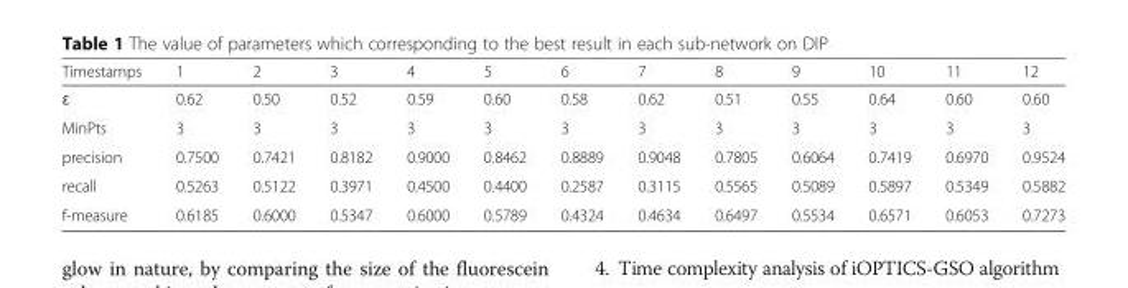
<table><thead><tr><td>Timestamps</td><td>1</td><td>2</td><td>3</td><td>4</td><td>5</td><td>6</td><td>7</td><td>8</td><td>9</td><td>10</td><td>11</td><td>12</td></tr></thead><tbody><tr><td>ɛ</td><td>0.62</td><td>0.50</td><td>0.52</td><td>0.59</td><td>0.60</td><td>0.58</td><td>0.62</td><td>0.51</td><td>0.55</td><td>0.64</td><td>0.60</td><td>0.60</td></tr><tr><td>MinPts</td><td>3</td><td>3</td><td>3</td><td>3</td><td>3</td><td>3</td><td>3</td><td>3</td><td>3</td><td>3</td><td>3</td><td>3</td></tr><tr><td>precision</td><td>0.7500</td><td>0.7421</td><td>0.8182</td><td>0.9000</td><td>0.8462</td><td>0.8889</td><td>0.9048</td><td>0.7805</td><td>0.6064</td><td>0.7419</td><td>0.6970</td><td>0.9524</td></tr><tr><td>recall</td><td>0.5263</td><td>0.5122</td><td>0.3971</td><td>0.4500</td><td>0.4400</td><td>0.2587</td><td>0.3115</td><td>0.5565</td><td>0.5089</td><td>0.5897</td><td>0.5349</td><td>0.5882</td></tr><tr><td>f-measure</td><td>0.6185</td><td>0.6000</td><td>0.5347</td><td>0.6000</td><td>0.5789</td><td>0.4324</td><td>0.4634</td><td>0.6497</td><td>0.5534</td><td>0.6571</td><td>0.6053</td><td>0.7273</td></tr></tbody></table>